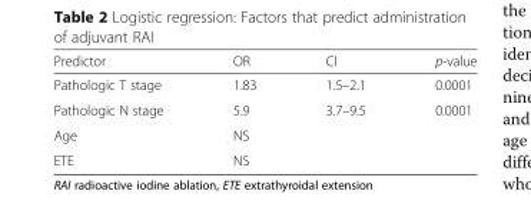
<table><thead><tr><td>Predictor</td><td>OR</td><td>CI</td><td>p-value</td></tr></thead><tbody><tr><td>Pathologic T stage</td><td>1.83</td><td>1.5–2.1</td><td>0.0001</td></tr><tr><td>Pathologic N stage</td><td>5.9</td><td>3.7–9.5</td><td>0.0001</td></tr><tr><td>Age</td><td>NS</td><td></td><td></td></tr><tr><td>ETE</td><td>NS</td><td></td><td></td></tr></tbody></table>